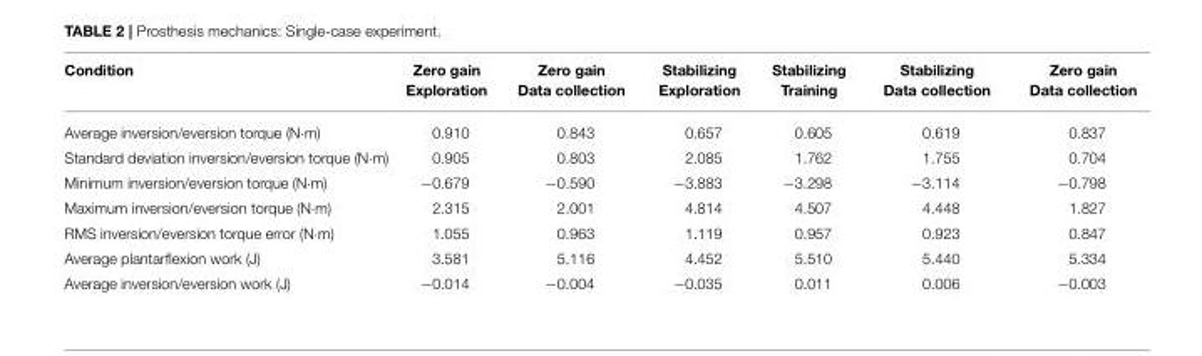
<table><thead><tr><td>Condition</td><td>Zero gain Exploration</td><td>Zero gain Data collection</td><td>Stabilizing Exploration</td><td>Stabilizing Training</td><td>Stabilizing Data collection</td><td>Zero gain Data collection</td></tr></thead><tbody><tr><td>Average inversion/eversion torque (N·m)</td><td>0.910</td><td>0.843</td><td>0.657</td><td>0.605</td><td>0.619</td><td>0.837</td></tr><tr><td>Standard deviation inversion/eversion torque (N·m)</td><td>0.905</td><td>0.803</td><td>2.085</td><td>1.762</td><td>1.755</td><td>0.704</td></tr><tr><td>Minimum inversion/eversion torque (N·m)</td><td>−0.679</td><td>−0.590</td><td>−3.883</td><td>−3.298</td><td>−3.114</td><td>−0.798</td></tr><tr><td>Maximum inversion/eversion torque (N·m)</td><td>2.315</td><td>2.001</td><td>4.814</td><td>4.507</td><td>4.448</td><td>1.827</td></tr><tr><td>RMS inversion/eversion torque error (N·m)</td><td>1.055</td><td>0.963</td><td>1.119</td><td>0.957</td><td>0.923</td><td>0.847</td></tr><tr><td>Average plantarflexion work (J)</td><td>3.581</td><td>5.116</td><td>4.452</td><td>5.510</td><td>5.440</td><td>5.334</td></tr><tr><td>Average inversion/eversion work (J)</td><td>−0.014</td><td>−0.004</td><td>−0.035</td><td>0.011</td><td>0.006</td><td>−0.003</td></tr></tbody></table>